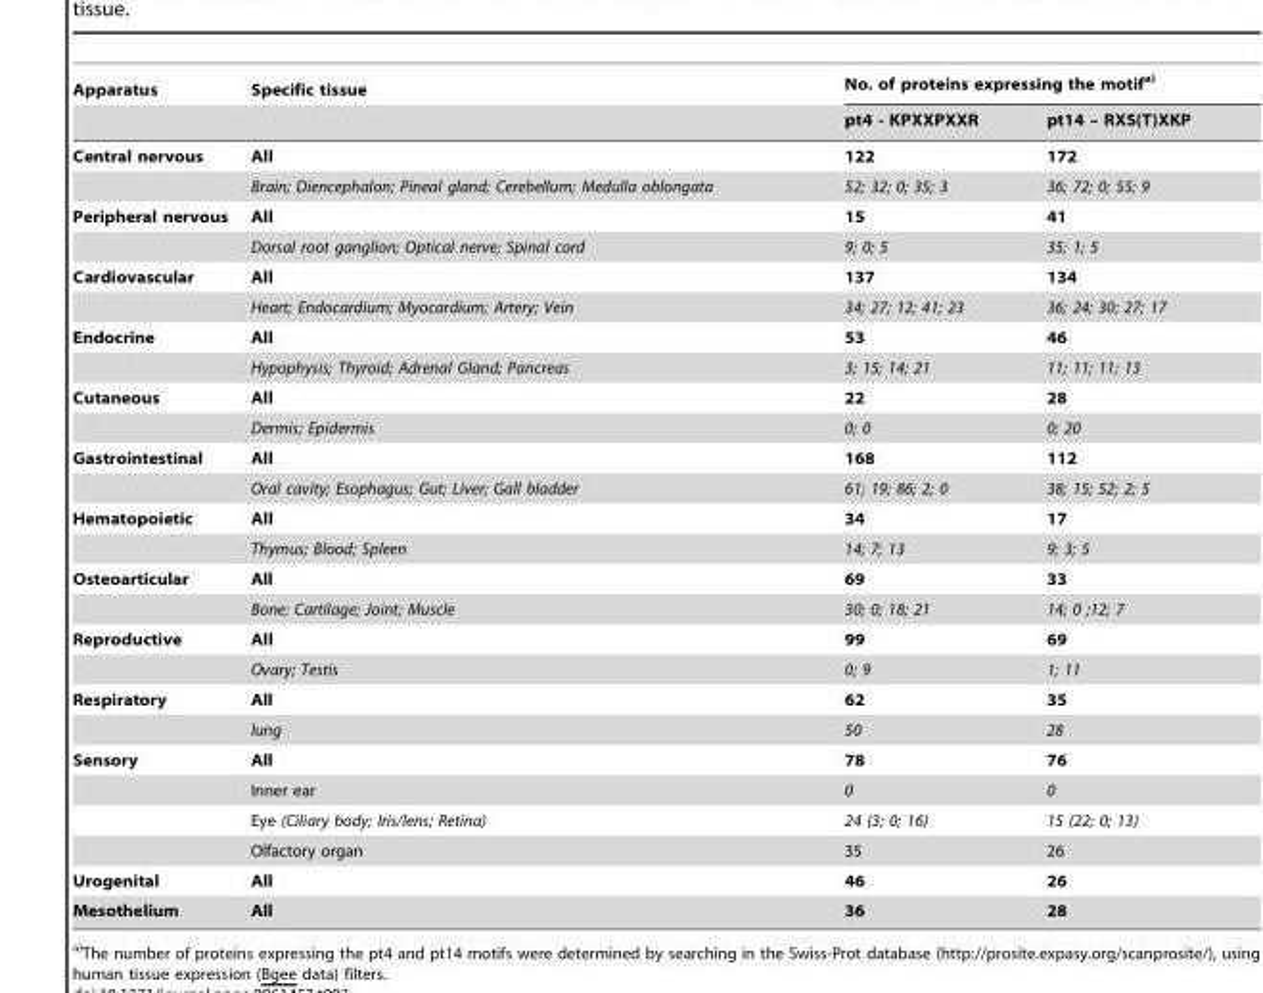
<table><thead><tr><td rowspan="2">Apparatus</td><td rowspan="2">Specific tissue</td><td colspan="2">No. of proteins expressing the motifa)</td></tr><tr><td>pt4 - KPXXPXXR</td><td>pt14 – RXS(T)XKP</td></tr></thead><tbody><tr><td rowspan="2">Central nervous</td><td>All</td><td>122</td><td>172</td></tr><tr><td>Brain; Diencephalon; Pineal gland; Cerebellum; Medulla oblongata</td><td>52; 32; 0; 35; 3</td><td>36; 72; 0; 55; 9</td></tr><tr><td rowspan="2">Peripheral nervous</td><td>All</td><td>15</td><td>41</td></tr><tr><td>Dorsal root ganglion; Optical nerve; Spinal cord</td><td>9; 0; 5</td><td>35; 1; 5</td></tr><tr><td rowspan="2">Cardiovascular</td><td>All</td><td>137</td><td>134</td></tr><tr><td>Heart; Endocardium; Myocardium; Artery; Vein</td><td>34; 27; 12; 41; 23</td><td>36; 24; 30; 27; 17</td></tr><tr><td rowspan="2">Endocrine</td><td>All</td><td>53</td><td>46</td></tr><tr><td>Hypophysis; Thyroid; Adrenal Gland; Pancreas</td><td>3; 15; 14; 21</td><td>11; 11; 11; 13</td></tr><tr><td rowspan="2">Cutaneous</td><td>All</td><td>22</td><td>28</td></tr><tr><td>Dermis; Epidermis</td><td>0; 0</td><td>0; 20</td></tr><tr><td rowspan="2">Gastrointestinal</td><td>All</td><td>168</td><td>112</td></tr><tr><td>Oral cavity; Esophagus; Gut; Liver; Gall bladder</td><td>61; 19; 86; 2; 0</td><td>38; 15; 52; 2; 5</td></tr><tr><td rowspan="2">Hematopoietic</td><td>All</td><td>34</td><td>17</td></tr><tr><td>Thymus; Blood; Spleen</td><td>14; 7; 13</td><td>9; 3; 5</td></tr><tr><td rowspan="2">Osteoarticular</td><td>All</td><td>69</td><td>33</td></tr><tr><td>Bone; Cartilage; Joint; Muscle</td><td>30; 0; 18; 21</td><td>14; 0 ;12; 7</td></tr><tr><td rowspan="2">Reproductive</td><td>All</td><td>99</td><td>69</td></tr><tr><td>Ovary; Testis</td><td>0; 9</td><td>1; 11</td></tr><tr><td rowspan="2">Respiratory</td><td>All</td><td>62</td><td>35</td></tr><tr><td>lung</td><td>50</td><td>28</td></tr><tr><td rowspan="4">Sensory</td><td>All</td><td>78</td><td>76</td></tr><tr><td>Inner ear</td><td>0</td><td>0</td></tr><tr><td>Eye (Ciliary body; Iris/lens; Retina)</td><td>24 (3; 0; 16)</td><td>15 (22; 0; 13)</td></tr><tr><td>Olfactory organ</td><td>35</td><td>26</td></tr><tr><td>Urogenital</td><td>All</td><td>46</td><td>26</td></tr><tr><td>Mesothelium</td><td>All</td><td>36</td><td>28</td></tr></tbody></table>